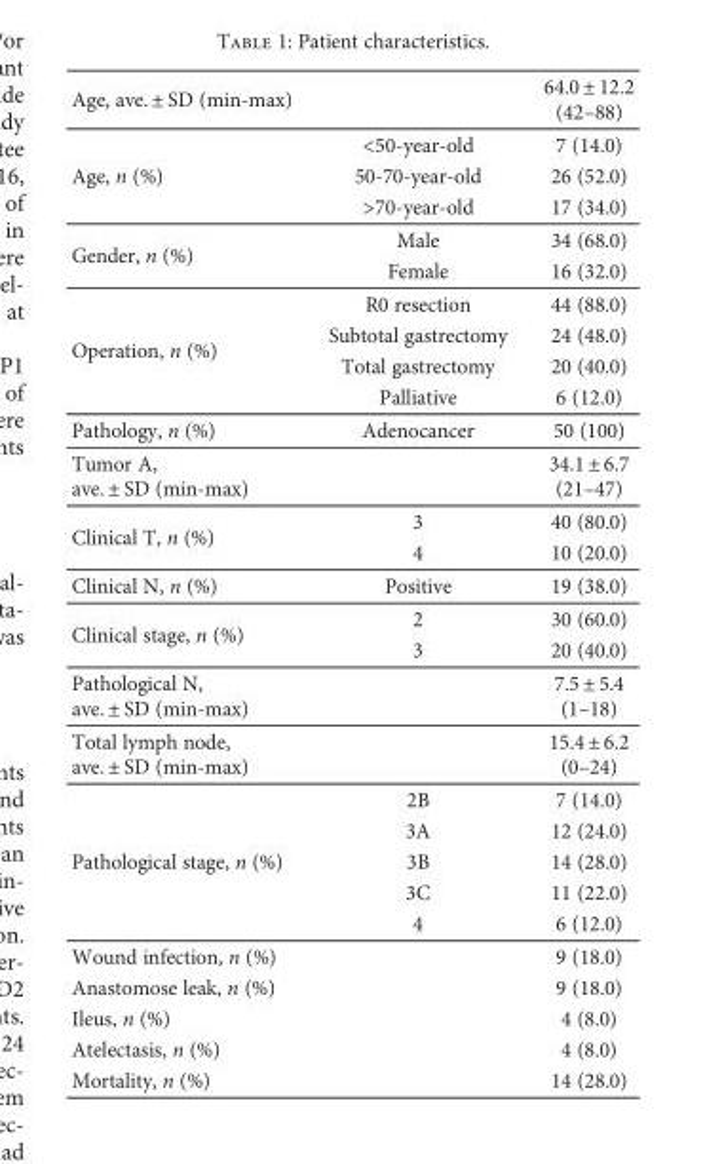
<table><tbody><tr><td>Age, ave. ± SD (min-max)</td><td></td><td>64.0 ± 12.2 (42–88)</td></tr><tr><td rowspan="3">Age, n (%)</td><td>&lt;50-year-old</td><td>7 (14.0)</td></tr><tr><td>50-70-year-old</td><td>26 (52.0)</td></tr><tr><td>&gt;70-year-old</td><td>17 (34.0)</td></tr><tr><td rowspan="2">Gender, n (%)</td><td>Male</td><td>34 (68.0)</td></tr><tr><td>Female</td><td>16 (32.0)</td></tr><tr><td rowspan="4">Operation, n (%)</td><td>R0 resection</td><td>44 (88.0)</td></tr><tr><td>Subtotal gastrectomy</td><td>24 (48.0)</td></tr><tr><td>Total gastrectomy</td><td>20 (40.0)</td></tr><tr><td>Palliative</td><td>6 (12.0)</td></tr><tr><td>Pathology, n (%)</td><td>Adenocancer</td><td>50 (100)</td></tr><tr><td>Tumor A, ave. ± SD (min-max)</td><td></td><td>34.1 ± 6.7 (21–47)</td></tr><tr><td rowspan="2">Clinical T, n (%)</td><td>3</td><td>40 (80.0)</td></tr><tr><td>4</td><td>10 (20.0)</td></tr><tr><td>Clinical N, n (%)</td><td>Positive</td><td>19 (38.0)</td></tr><tr><td rowspan="2">Clinical stage, n (%)</td><td>2</td><td>30 (60.0)</td></tr><tr><td>3</td><td>20 (40.0)</td></tr><tr><td>Pathological N, ave. ± SD (min-max)</td><td></td><td>7.5 ± 5.4 (1–18)</td></tr><tr><td>Total lymph node, ave. ± SD (min-max)</td><td></td><td>15.4 ± 6.2 (0–24)</td></tr><tr><td rowspan="5">Pathological stage, n (%)</td><td>2B</td><td>7 (14.0)</td></tr><tr><td>3A</td><td>12 (24.0)</td></tr><tr><td>3B</td><td>14 (28.0)</td></tr><tr><td>3C</td><td>11 (22.0)</td></tr><tr><td>4</td><td>6 (12.0)</td></tr><tr><td>Wound infection, n (%)</td><td></td><td>9 (18.0)</td></tr><tr><td>Anastomose leak, n (%)</td><td></td><td>9 (18.0)</td></tr><tr><td>Ileus, n (%)</td><td></td><td>4 (8.0)</td></tr><tr><td>Atelectasis, n (%)</td><td></td><td>4 (8.0)</td></tr><tr><td>Mortality, n (%)</td><td></td><td>14 (28.0)</td></tr></tbody></table>